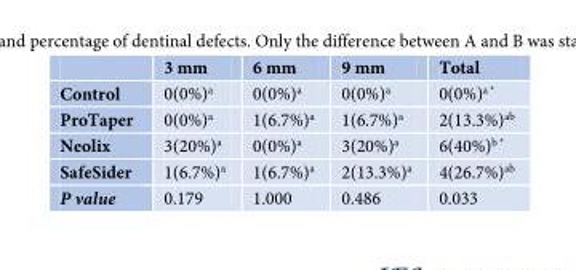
<table><thead><tr><td></td><td>3 mm</td><td>6 mm</td><td>9 mm</td><td>Total</td></tr></thead><tbody><tr><td>Control</td><td>0(0%)<sup>a</sup></td><td>0(0%)<sup>a</sup></td><td>0(0%)<sup>a</sup></td><td>0(0%)<sup>a *</sup></td></tr><tr><td>ProTaper</td><td>0(0%)<sup>a</sup></td><td>1(6.7%)<sup>a</sup></td><td>1(6.7%)<sup>a</sup></td><td>2(13.3%)<sup>ab</sup></td></tr><tr><td>Neolix</td><td>3(20%)<sup>a</sup></td><td>0(0%)<sup>a</sup></td><td>3(20%)<sup>a</sup></td><td>6(40%)<sup>b *</sup></td></tr><tr><td>SafeSider</td><td>1(6.7%)<sup>a</sup></td><td>1(6.7%)<sup>a</sup></td><td>2(13.3%)<sup>a</sup></td><td>4(26.7%)<sup>ab</sup></td></tr><tr><td>P value</td><td>0.179</td><td>1.000</td><td>0.486</td><td>0.033</td></tr></tbody></table>